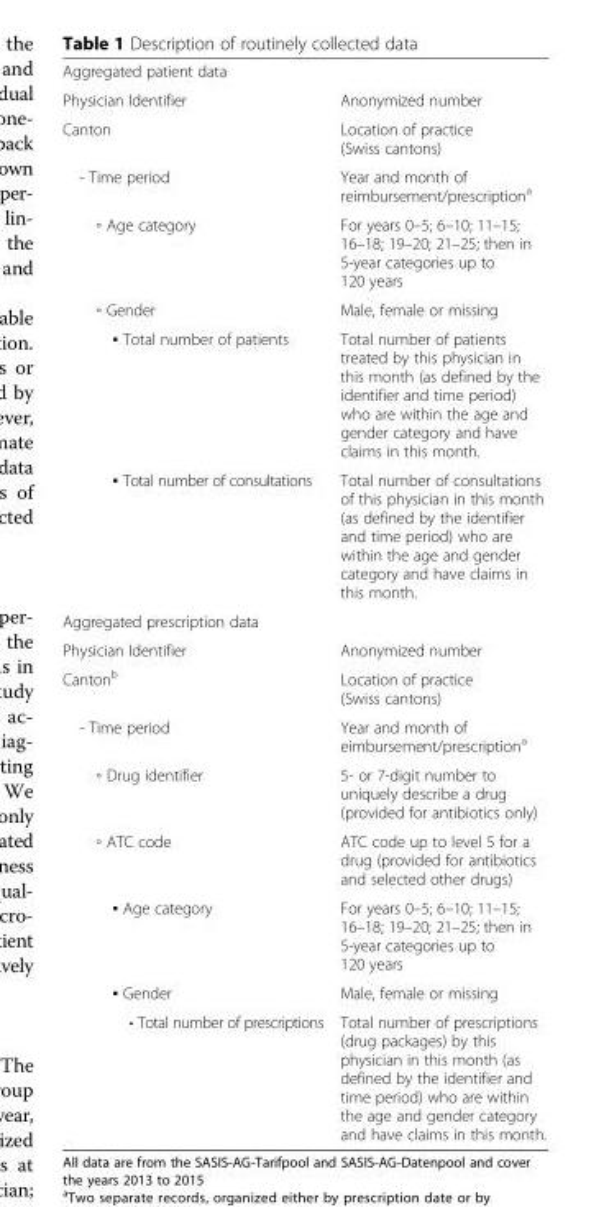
<table><tbody><tr><td colspan="2">Aggregated patient data</td></tr><tr><td>Physician Identifier</td><td>Anonymized number</td></tr><tr><td>Canton</td><td>Location of practice (Swiss cantons)</td></tr><tr><td>- Time period</td><td>Year and month of reimbursement/prescription<sup>a</sup></td></tr><tr><td>◦ Age category</td><td>For years 0–5; 6–10; 11–15; 16–18; 19–20; 21–25; then in 5-year categories up to 120 years</td></tr><tr><td>◦ Gender</td><td>Male, female or missing</td></tr><tr><td>▪ Total number of patients</td><td>Total number of patients treated by this physician in this month (as defined by the identifier and time period) who are within the age and gender category and have claims in this month.</td></tr><tr><td>▪ Total number of consultations</td><td>Total number of consultations of this physician in this month (as defined by the identifier and time period) who are within the age and gender category and have claims in this month.</td></tr><tr><td colspan="2">Aggregated prescription data</td></tr><tr><td>Physician Identifier</td><td>Anonymized number</td></tr><tr><td>Canton<sup>b</sup></td><td>Location of practice (Swiss cantons)</td></tr><tr><td>- Time period</td><td>Year and month of eimbursement/prescription<sup>a</sup></td></tr><tr><td>◦ Drug identifier</td><td>5- or 7-digit number to uniquely describe a drug (provided for antibiotics only)</td></tr><tr><td>◦ ATC code</td><td>ATC code up to level 5 for a drug (provided for antibiotics and selected other drugs)</td></tr><tr><td>▪ Age category</td><td>For years 0–5; 6–10; 11–15; 16–18; 19–20; 21–25; then in 5-year categories up to 120 years</td></tr><tr><td>▪ Gender</td><td>Male, female or missing</td></tr><tr><td>• Total number of prescriptions</td><td>Total number of prescriptions (drug packages) by this physician in this month (as defined by the identifier and time period) who are within the age and gender category and have claims in this month.</td></tr></tbody></table>